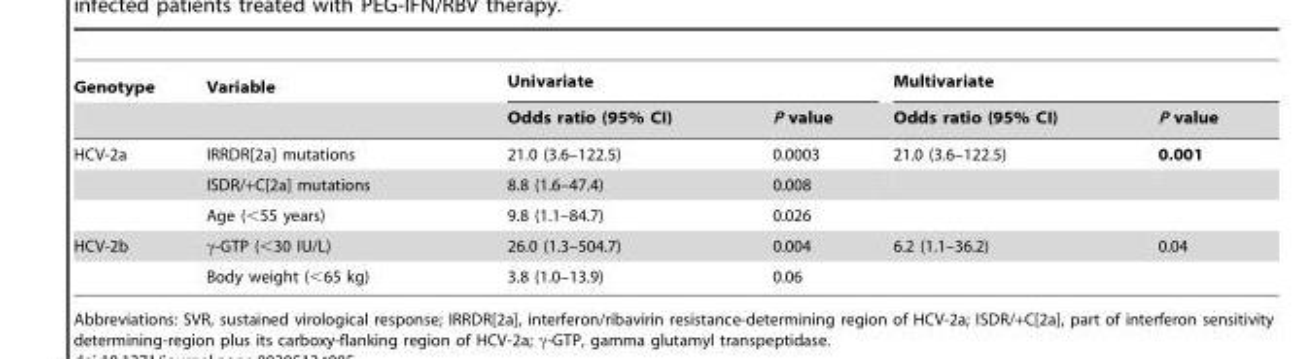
<table><thead><tr><td rowspan="2">Genotype</td><td rowspan="2">Variable</td><td colspan="2">Univariate</td><td colspan="2">Multivariate</td></tr><tr><td>Odds ratio (95% CI)</td><td>P value</td><td>Odds ratio (95% CI)</td><td>P value</td></tr></thead><tbody><tr><td rowspan="3">HCV-2a</td><td>IRRDR[2a] mutations</td><td>21.0 (3.6–122.5)</td><td>0.0003</td><td>21.0 (3.6–122.5)</td><td>0.001</td></tr><tr><td>ISDR/+C[2a] mutations</td><td>8.8 (1.6–47.4)</td><td>0.008</td><td></td><td></td></tr><tr><td>Age (&lt;55 years)</td><td>9.8 (1.1–84.7)</td><td>0.026</td><td></td><td></td></tr><tr><td rowspan="2">HCV-2b</td><td>γ-GTP (&lt;30 IU/L)</td><td>26.0 (1.3–504.7)</td><td>0.004</td><td>6.2 (1.1–36.2)</td><td>0.04</td></tr><tr><td>Body weight (&lt;65 kg)</td><td>3.8 (1.0–13.9)</td><td>0.06</td><td></td><td></td></tr></tbody></table>